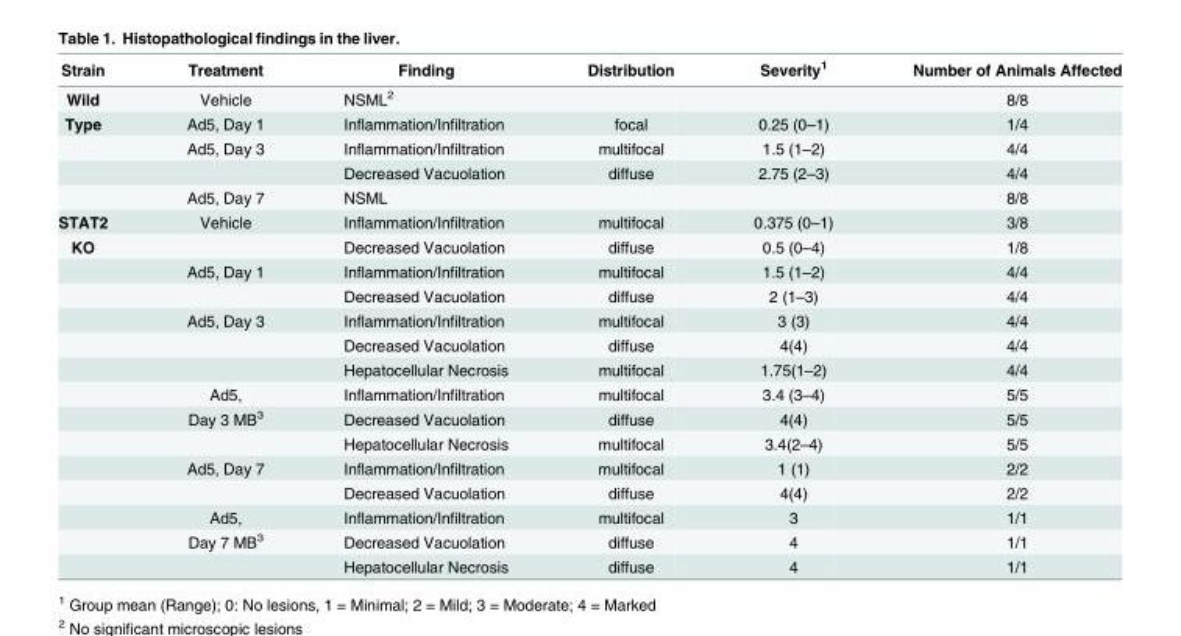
<table><thead><tr><td>Strain</td><td>Treatment</td><td>Finding</td><td>Distribution</td><td>Severity<sup>1</sup></td><td>Number of Animals Affected</td></tr></thead><tbody><tr><td>Wild</td><td>Vehicle</td><td>NSML<sup>2</sup></td><td></td><td></td><td>8/8</td></tr><tr><td rowspan="4">Type</td><td>Ad5, Day 1</td><td>Inflammation/Infiltration</td><td>focal</td><td>0.25 (0–1)</td><td>1/4</td></tr><tr><td>Ad5, Day 3</td><td>Inflammation/Infiltration</td><td>multifocal</td><td>1.5 (1–2)</td><td>4/4</td></tr><tr><td></td><td>Decreased Vacuolation</td><td>diffuse</td><td>2.75 (2–3)</td><td>4/4</td></tr><tr><td>Ad5, Day 7</td><td>NSML</td><td></td><td></td><td>8/8</td></tr><tr><td>STAT2</td><td>Vehicle</td><td>Inflammation/Infiltration</td><td>multifocal</td><td>0.375 (0–1)</td><td>3/8</td></tr><tr><td rowspan="14">KO</td><td></td><td>Decreased Vacuolation</td><td>diffuse</td><td>0.5 (0–4)</td><td>1/8</td></tr><tr><td>Ad5, Day 1</td><td>Inflammation/Infiltration</td><td>multifocal</td><td>1.5 (1–2)</td><td>4/4</td></tr><tr><td></td><td>Decreased Vacuolation</td><td>diffuse</td><td>2 (1–3)</td><td>4/4</td></tr><tr><td>Ad5, Day 3</td><td>Inflammation/Infiltration</td><td>multifocal</td><td>3 (3)</td><td>4/4</td></tr><tr><td></td><td>Decreased Vacuolation</td><td>diffuse</td><td>4(4)</td><td>4/4</td></tr><tr><td></td><td>Hepatocellular Necrosis</td><td>multifocal</td><td>1.75(1–2)</td><td>4/4</td></tr><tr><td>Ad5,</td><td>Inflammation/Infiltration</td><td>multifocal</td><td>3.4 (3–4)</td><td>5/5</td></tr><tr><td>Day 3 MB<sup>3</sup></td><td>Decreased Vacuolation</td><td>diffuse</td><td>4(4)</td><td>5/5</td></tr><tr><td></td><td>Hepatocellular Necrosis</td><td>multifocal</td><td>3.4(2–4)</td><td>5/5</td></tr><tr><td>Ad5, Day 7</td><td>Inflammation/Infiltration</td><td>multifocal</td><td>1 (1)</td><td>2/2</td></tr><tr><td></td><td>Decreased Vacuolation</td><td>diffuse</td><td>4(4)</td><td>2/2</td></tr><tr><td>Ad5,</td><td>Inflammation/Infiltration</td><td>multifocal</td><td>3</td><td>1/1</td></tr><tr><td>Day 7 MB<sup>3</sup></td><td>Decreased Vacuolation</td><td>diffuse</td><td>4</td><td>1/1</td></tr><tr><td></td><td>Hepatocellular Necrosis</td><td>diffuse</td><td>4</td><td>1/1</td></tr></tbody></table>